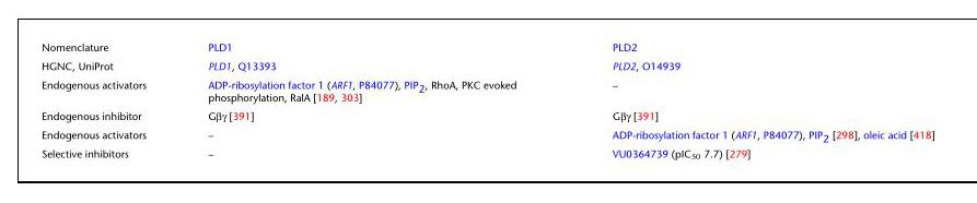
<table><tbody><tr><td>Nomenclature</td><td>PLD1</td><td>PLD2</td></tr><tr><td>HGNC, UniProt</td><td>PLD1, Q13393</td><td>PLD2, O14939</td></tr><tr><td>Endogenous activators</td><td>ADP-ribosylation factor 1 (ARF1, P84077), PIP<sub>2</sub>, RhoA, PKC evoked phosphorylation, RalA [189, 303]</td><td>–</td></tr><tr><td>Endogenous inhibitor</td><td>Gβγ [391]</td><td>Gβγ [391]</td></tr><tr><td>Endogenous activators</td><td>–</td><td>ADP-ribosylation factor 1 (ARF1, P84077), PIP<sub>2</sub> [298], oleic acid [418]</td></tr><tr><td>Selective inhibitors</td><td>–</td><td>VU0364739 (pIC<sub>50</sub> 7.7) [279]</td></tr></tbody></table>